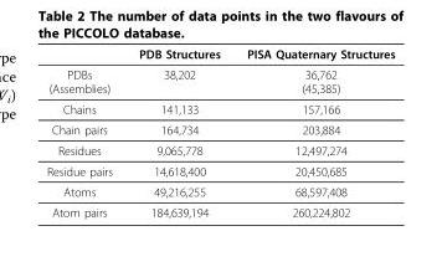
<table><thead><tr><td></td><td>PDB Structures</td><td>PISA Quaternary Structures</td></tr></thead><tbody><tr><td>PDBs (Assemblies)</td><td>38,202</td><td>36,762 (45,385)</td></tr><tr><td>Chains</td><td>141,133</td><td>157,166</td></tr><tr><td>Chain pairs</td><td>164,734</td><td>203,884</td></tr><tr><td>Residues</td><td>9,065,778</td><td>12,497,274</td></tr><tr><td>Residue pairs</td><td>14,618,400</td><td>20,450,685</td></tr><tr><td>Atoms</td><td>49,216,255</td><td>68,597,408</td></tr><tr><td>Atom pairs</td><td>184,639,194</td><td>260,224,802</td></tr></tbody></table>